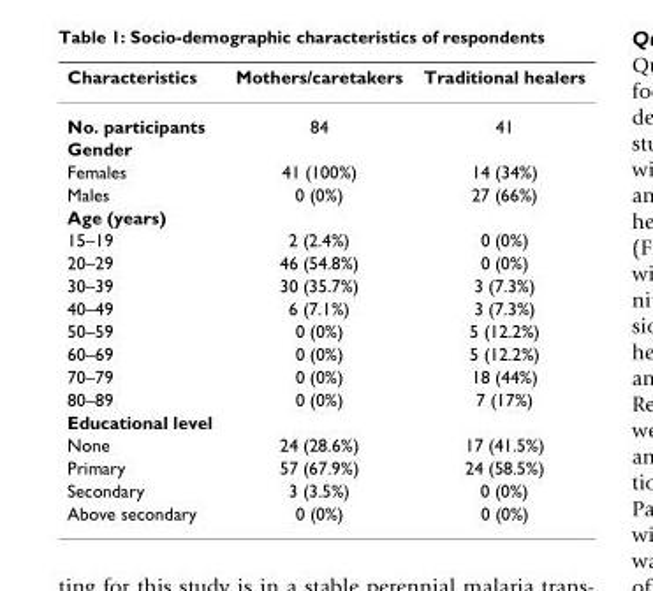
<table><thead><tr><td>Characteristics</td><td>Mothers/caretakers</td><td>Traditional healers</td></tr></thead><tbody><tr><td>No. participants</td><td>84</td><td>41</td></tr><tr><td colspan="3">Gender</td></tr><tr><td>Females</td><td>41 (100%)</td><td>14 (34%)</td></tr><tr><td>Males</td><td>0 (0%)</td><td>27 (66%)</td></tr><tr><td colspan="3">Age (years)</td></tr><tr><td>15–19</td><td>2 (2.4%)</td><td>0 (0%)</td></tr><tr><td>20–29</td><td>46 (54.8%)</td><td>0 (0%)</td></tr><tr><td>30–39</td><td>30 (35.7%)</td><td>3 (7.3%)</td></tr><tr><td>40–49</td><td>6 (7.1%)</td><td>3 (7.3%)</td></tr><tr><td>50–59</td><td>0 (0%)</td><td>5 (12.2%)</td></tr><tr><td>60–69</td><td>0 (0%)</td><td>5 (12.2%)</td></tr><tr><td>70–79</td><td>0 (0%)</td><td>18 (44%)</td></tr><tr><td>80–89</td><td>0 (0%)</td><td>7 (17%)</td></tr><tr><td colspan="3">Educational level</td></tr><tr><td>None</td><td>24 (28.6%)</td><td>17 (41.5%)</td></tr><tr><td>Primary</td><td>57 (67.9%)</td><td>24 (58.5%)</td></tr><tr><td>Secondary</td><td>3 (3.5%)</td><td>0 (0%)</td></tr><tr><td>Above secondary</td><td>0 (0%)</td><td>0 (0%)</td></tr></tbody></table>